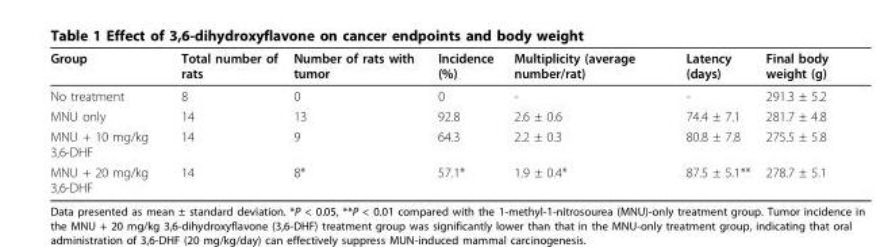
<table><thead><tr><td>Group</td><td>Total number of rats</td><td>Number of rats with tumor</td><td>Incidence (%)</td><td>Multiplicity (average number/rat)</td><td>Latency (days)</td><td>Final body weight (g)</td></tr></thead><tbody><tr><td>No treatment</td><td>8</td><td>0</td><td>0</td><td>-</td><td>-</td><td>291.3 ± 5.2</td></tr><tr><td>MNU only</td><td>14</td><td>13</td><td>92.8</td><td>2.6 ± 0.6</td><td>74.4 ± 7.1</td><td>281.7 ± 4.8</td></tr><tr><td>MNU + 10 mg/kg 3,6-DHF</td><td>14</td><td>9</td><td>64.3</td><td>2.2 ± 0.3</td><td>80.8 ± 7.8</td><td>275.5 ± 5.8</td></tr><tr><td>MNU + 20 mg/kg 3,6-DHF</td><td>14</td><td>8*</td><td>57.1*</td><td>1.9 ± 0.4*</td><td>87.5 ± 5.1**</td><td>278.7 ± 5.1</td></tr></tbody></table>